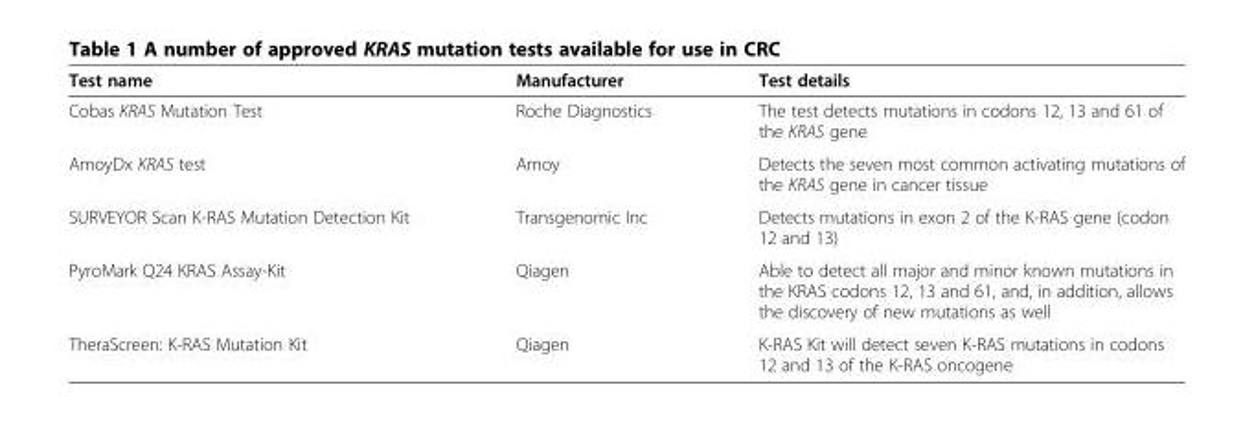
<table><thead><tr><td>Test name</td><td>Manufacturer</td><td>Test details</td></tr></thead><tbody><tr><td>Cobas KRAS Mutation Test</td><td>Roche Diagnostics</td><td>The test detects mutations in codons 12, 13 and 61 of the KRAS gene</td></tr><tr><td>AmoyDx KRAS test</td><td>Amoy</td><td>Detects the seven most common activating mutations of the KRAS gene in cancer tissue</td></tr><tr><td>SURVEYOR Scan K-RAS Mutation Detection Kit</td><td>Transgenomic Inc</td><td>Detects mutations in exon 2 of the K-RAS gene (codon 12 and 13)</td></tr><tr><td>PyroMark Q24 KRAS Assay-Kit</td><td>Qiagen</td><td>Able to detect all major and minor known mutations in the KRAS codons 12, 13 and 61, and, in addition, allows the discovery of new mutations as well</td></tr><tr><td>TheraScreen: K-RAS Mutation Kit</td><td>Qiagen</td><td>K-RAS Kit will detect seven K-RAS mutations in codons 12 and 13 of the K-RAS oncogene</td></tr></tbody></table>